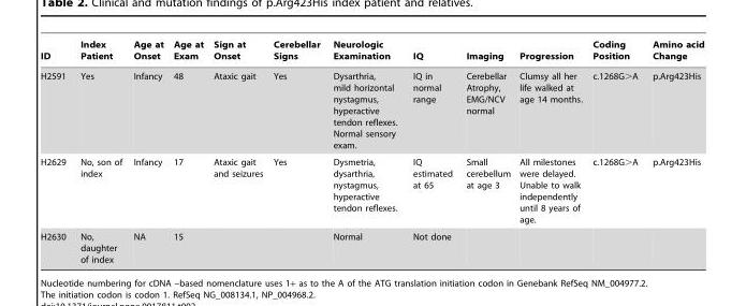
<table><thead><tr><td>ID</td><td>Index Patient</td><td>Age at Onset</td><td>Age at Exam</td><td>Sign at Onset</td><td>Cerebellar Signs</td><td>Neurologic Examination</td><td>IQ</td><td>Imaging</td><td>Progression</td><td>Coding Position</td><td>Amino acid Change</td></tr></thead><tbody><tr><td>H2591</td><td>Yes</td><td>Infancy</td><td>48</td><td>Ataxic gait</td><td>Yes</td><td>Dysarthria, mild horizontal nystagmus, hyperactive tendon reflexes. Normal sensory exam.</td><td>IQ in normal range</td><td>Cerebellar Atrophy, EMG/NCV normal</td><td>Clumsy all her life walked at age 14 months.</td><td>c.1268G&gt;A</td><td>p.Arg423His</td></tr><tr><td>H2629</td><td>No, son of index</td><td>Infancy</td><td>17</td><td>Ataxic gait and seizures</td><td>Yes</td><td>Dysmetria, dysarthria, nystagmus, hyperactive tendon reflexes.</td><td>IQ estimated at 65</td><td>Small cerebellum at age 3</td><td>All milestones were delayed. Unable to walk independently until 8 years of age.</td><td>c.1268G&gt;A</td><td>p.Arg423His</td></tr><tr><td>H2630</td><td>No, daughter of index</td><td>NA</td><td>15</td><td></td><td></td><td>Normal</td><td>Not done</td><td></td><td></td><td></td><td></td></tr></tbody></table>